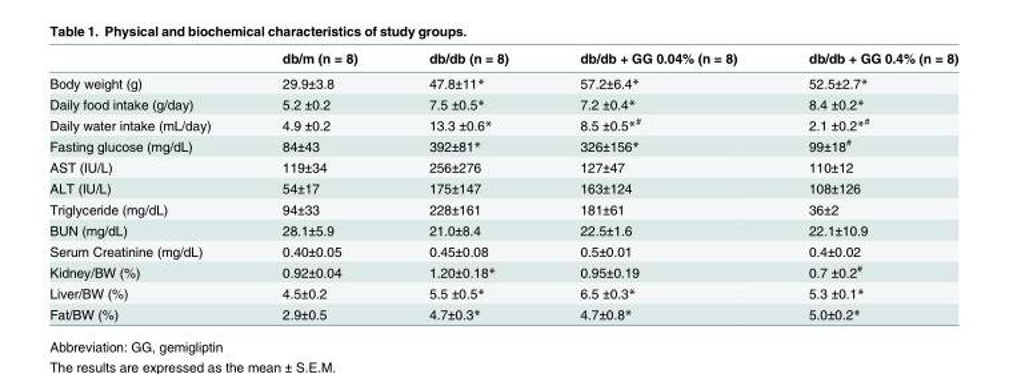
<table><thead><tr><td></td><td>db/m (n = 8)</td><td>db/db (n = 8)</td><td>db/db + GG 0.04% (n = 8)</td><td>db/db + GG 0.4% (n = 8)</td></tr></thead><tbody><tr><td>Body weight (g)</td><td>29.9±3.8</td><td>47.8±11*</td><td>57.2±6.4*</td><td>52.5±2.7*</td></tr><tr><td>Daily food intake (g/day)</td><td>5.2 ±0.2</td><td>7.5 ±0.5*</td><td>7.2 ±0.4*</td><td>8.4 ±0.2*</td></tr><tr><td>Daily water intake (mL/day)</td><td>4.9 ±0.2</td><td>13.3 ±0.6*</td><td>8.5 ±0.5*<sup>#</sup></td><td>2.1 ±0.2*<sup>#</sup></td></tr><tr><td>Fasting glucose (mg/dL)</td><td>84±43</td><td>392±81*</td><td>326±156*</td><td>99±18<sup>#</sup></td></tr><tr><td>AST (IU/L)</td><td>119±34</td><td>256±276</td><td>127±47</td><td>110±12</td></tr><tr><td>ALT (IU/L)</td><td>54±17</td><td>175±147</td><td>163±124</td><td>108±126</td></tr><tr><td>Triglyceride (mg/dL)</td><td>94±33</td><td>228±161</td><td>181±61</td><td>36±2</td></tr><tr><td>BUN (mg/dL)</td><td>28.1±5.9</td><td>21.0±8.4</td><td>22.5±1.6</td><td>22.1±10.9</td></tr><tr><td>Serum Creatinine (mg/dL)</td><td>0.40±0.05</td><td>0.45±0.08</td><td>0.5±0.01</td><td>0.4±0.02</td></tr><tr><td>Kidney/BW (%)</td><td>0.92±0.04</td><td>1.20±0.18*</td><td>0.95±0.19</td><td>0.7 ±0.2<sup>#</sup></td></tr><tr><td>Liver/BW (%)</td><td>4.5±0.2</td><td>5.5 ±0.5*</td><td>6.5 ±0.3*</td><td>5.3 ±0.1*</td></tr><tr><td>Fat/BW (%)</td><td>2.9±0.5</td><td>4.7±0.3*</td><td>4.7±0.8*</td><td>5.0±0.2*</td></tr></tbody></table>